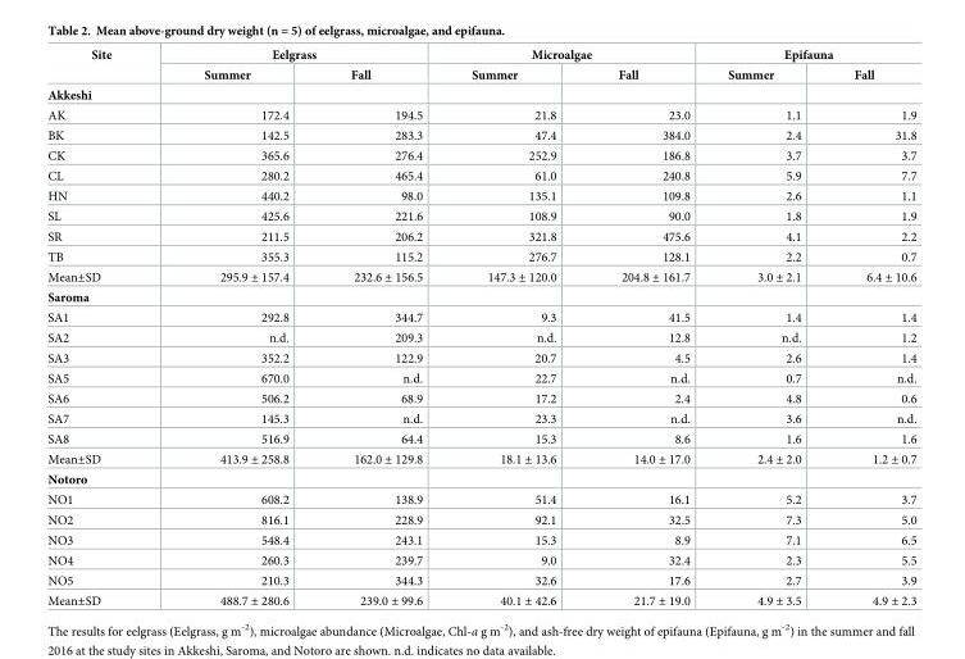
<table><thead><tr><td rowspan="2">Site</td><td colspan="2">Eelgrass</td><td colspan="2">Microalgae</td><td colspan="2">Epifauna</td></tr><tr><td>Summer</td><td>Fall</td><td>Summer</td><td>Fall</td><td>Summer</td><td>Fall</td></tr></thead><tbody><tr><td colspan="7">Akkeshi</td></tr><tr><td>AK</td><td>172.4</td><td>194.5</td><td>21.8</td><td>23.0</td><td>1.1</td><td>1.9</td></tr><tr><td>BK</td><td>142.5</td><td>283.3</td><td>47.4</td><td>384.0</td><td>2.4</td><td>31.8</td></tr><tr><td>CK</td><td>365.6</td><td>276.4</td><td>252.9</td><td>186.8</td><td>3.7</td><td>3.7</td></tr><tr><td>CL</td><td>280.2</td><td>465.4</td><td>61.0</td><td>240.8</td><td>5.9</td><td>7.7</td></tr><tr><td>HN</td><td>440.2</td><td>98.0</td><td>135.1</td><td>109.8</td><td>2.6</td><td>1.1</td></tr><tr><td>SL</td><td>425.6</td><td>221.6</td><td>108.9</td><td>90.0</td><td>1.8</td><td>1.9</td></tr><tr><td>SR</td><td>211.5</td><td>206.2</td><td>321.8</td><td>475.6</td><td>4.1</td><td>2.2</td></tr><tr><td>TB</td><td>355.3</td><td>115.2</td><td>276.7</td><td>128.1</td><td>2.2</td><td>0.7</td></tr><tr><td>Mean±SD</td><td>295.9 ± 157.4</td><td>232.6 ± 156.5</td><td>147.3 ± 120.0</td><td>204.8 ± 161.7</td><td>3.0 ± 2.1</td><td>6.4 ± 10.6</td></tr><tr><td colspan="7">Saroma</td></tr><tr><td>SA1</td><td>292.8</td><td>344.7</td><td>9.3</td><td>41.5</td><td>1.4</td><td>1.4</td></tr><tr><td>SA2</td><td>n.d.</td><td>209.3</td><td>n.d.</td><td>12.8</td><td>n.d.</td><td>1.2</td></tr><tr><td>SA3</td><td>352.2</td><td>122.9</td><td>20.7</td><td>4.5</td><td>2.6</td><td>1.4</td></tr><tr><td>SA5</td><td>670.0</td><td>n.d.</td><td>22.7</td><td>n.d.</td><td>0.7</td><td>n.d.</td></tr><tr><td>SA6</td><td>506.2</td><td>68.9</td><td>17.2</td><td>2.4</td><td>4.8</td><td>0.6</td></tr><tr><td>SA7</td><td>145.3</td><td>n.d.</td><td>23.3</td><td>n.d.</td><td>3.6</td><td>n.d.</td></tr><tr><td>SA8</td><td>516.9</td><td>64.4</td><td>15.3</td><td>8.6</td><td>1.6</td><td>1.6</td></tr><tr><td>Mean±SD</td><td>413.9 ± 258.8</td><td>162.0 ± 129.8</td><td>18.1 ± 13.6</td><td>14.0 ± 17.0</td><td>2.4 ± 2.0</td><td>1.2 ± 0.7</td></tr><tr><td colspan="7">Notoro</td></tr><tr><td>NO1</td><td>608.2</td><td>138.9</td><td>51.4</td><td>16.1</td><td>5.2</td><td>3.7</td></tr><tr><td>NO2</td><td>816.1</td><td>228.9</td><td>92.1</td><td>32.5</td><td>7.3</td><td>5.0</td></tr><tr><td>NO3</td><td>548.4</td><td>243.1</td><td>15.3</td><td>8.9</td><td>7.1</td><td>6.5</td></tr><tr><td>NO4</td><td>260.3</td><td>239.7</td><td>9.0</td><td>32.4</td><td>2.3</td><td>5.5</td></tr><tr><td>NO5</td><td>210.3</td><td>344.3</td><td>32.6</td><td>17.6</td><td>2.7</td><td>3.9</td></tr><tr><td>Mean±SD</td><td>488.7 ± 280.6</td><td>239.0 ± 99.6</td><td>40.1 ± 42.6</td><td>21.7 ± 19.0</td><td>4.9 ± 3.5</td><td>4.9 ± 2.3</td></tr></tbody></table>